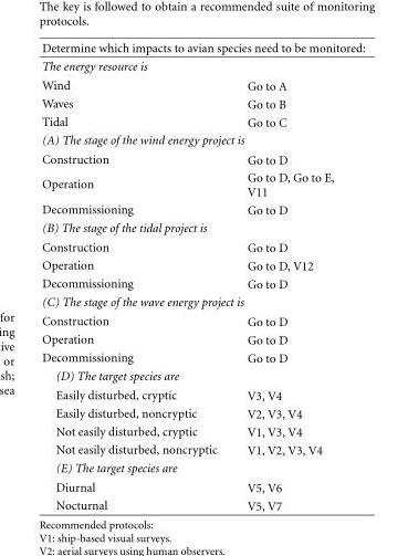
<table><thead><tr><td colspan="2">Determine which impacts to avian species need to be monitored:</td></tr><tr><td>The energy resource is</td><td></td></tr></thead><tbody><tr><td>Wind</td><td>Go to A</td></tr><tr><td>Waves</td><td>Go to B</td></tr><tr><td>Tidal</td><td>Go to C</td></tr><tr><td colspan="2">(A) The stage of the wind energy project is</td></tr><tr><td>Construction</td><td>Go to D</td></tr><tr><td>Operation</td><td>Go to D, Go to E, V11</td></tr><tr><td>Decommissioning</td><td>Go to D</td></tr><tr><td colspan="2">(B) The stage of the tidal project is</td></tr><tr><td>Construction</td><td>Go to D</td></tr><tr><td>Operation</td><td>Go to D, V12</td></tr><tr><td>Decommissioning</td><td>Go to D</td></tr><tr><td colspan="2">(C) The stage of the wave energy project is</td></tr><tr><td>Construction</td><td>Go to D</td></tr><tr><td>Operation</td><td>Go to D</td></tr><tr><td>Decommissioning</td><td>Go to D</td></tr><tr><td colspan="2">(D) The target species are</td></tr><tr><td>Easily disturbed, cryptic</td><td>V3, V4</td></tr><tr><td>Easily disturbed, noncryptic</td><td>V2, V3, V4</td></tr><tr><td>Not easily disturbed, cryptic</td><td>V1, V3, V4</td></tr><tr><td>Not easily disturbed, noncryptic</td><td>V1, V2, V3, V4</td></tr><tr><td colspan="2">(E) The target species are</td></tr><tr><td>Diurnal</td><td>V5, V6</td></tr><tr><td>Nocturnal</td><td>V5, V7</td></tr></tbody></table>